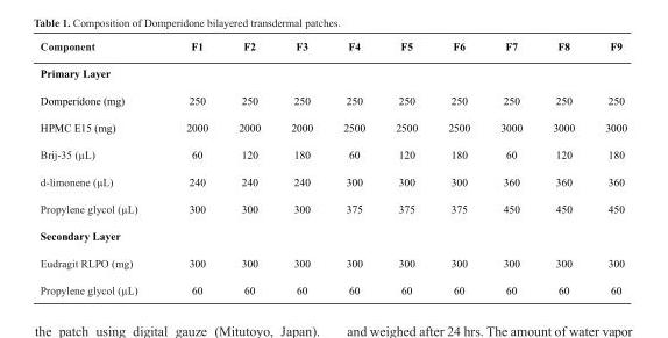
<table><thead><tr><td>Component</td><td>F1</td><td>F2</td><td>F3</td><td>F4</td><td>F5</td><td>F6</td><td>F7</td><td>F8</td><td>F9</td></tr></thead><tbody><tr><td colspan="10">Primary Layer</td></tr><tr><td>Domperidone (mg)</td><td>250</td><td>250</td><td>250</td><td>250</td><td>250</td><td>250</td><td>250</td><td>250</td><td>250</td></tr><tr><td>HPMC E15 (mg)</td><td>2000</td><td>2000</td><td>2000</td><td>2500</td><td>2500</td><td>2500</td><td>3000</td><td>3000</td><td>3000</td></tr><tr><td>Brij-35 (µL)</td><td>60</td><td>120</td><td>180</td><td>60</td><td>120</td><td>180</td><td>60</td><td>120</td><td>180</td></tr><tr><td>d-limonene (µL)</td><td>240</td><td>240</td><td>240</td><td>300</td><td>300</td><td>300</td><td>360</td><td>360</td><td>360</td></tr><tr><td>Propylene glycol (µL)</td><td>300</td><td>300</td><td>300</td><td>375</td><td>375</td><td>375</td><td>450</td><td>450</td><td>450</td></tr><tr><td colspan="10">Secondary Layer</td></tr><tr><td>Eudragit RLPO (mg)</td><td>300</td><td>300</td><td>300</td><td>300</td><td>300</td><td>300</td><td>300</td><td>300</td><td>300</td></tr><tr><td>Propylene glycol (µL)</td><td>60</td><td>60</td><td>60</td><td>60</td><td>60</td><td>60</td><td>60</td><td>60</td><td>60</td></tr></tbody></table>